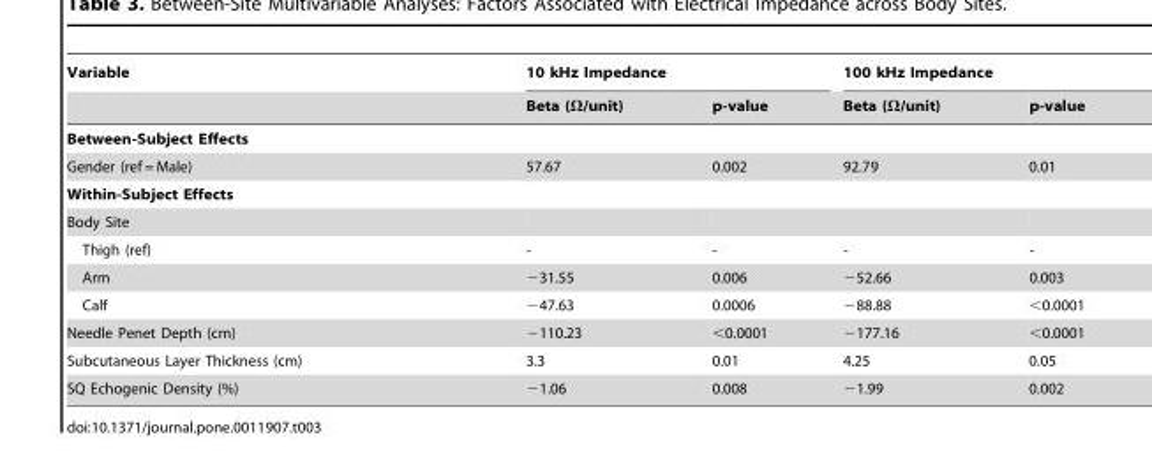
<table><thead><tr><td rowspan="2">Variable</td><td colspan="2">10 kHz Impedance</td><td colspan="2">100 kHz Impedance</td></tr><tr><td>Beta (Ω/unit)</td><td>p-value</td><td>Beta (Ω/unit)</td><td>p-value</td></tr></thead><tbody><tr><td colspan="5">Between-Subject Effects</td></tr><tr><td>Gender (ref = Male)</td><td>57.67</td><td>0.002</td><td>92.79</td><td>0.01</td></tr><tr><td colspan="5">Within-Subject Effects</td></tr><tr><td colspan="5">Body Site</td></tr><tr><td>Thigh (ref)</td><td>-</td><td>-</td><td>-</td><td>-</td></tr><tr><td>Arm</td><td>−31.55</td><td>0.006</td><td>−52.66</td><td>0.003</td></tr><tr><td>Calf</td><td>−47.63</td><td>0.0006</td><td>−88.88</td><td>&lt;0.0001</td></tr><tr><td>Needle Penet Depth (cm)</td><td>−110.23</td><td>&lt;0.0001</td><td>−177.16</td><td>&lt;0.0001</td></tr><tr><td>Subcutaneous Layer Thickness (cm)</td><td>3.3</td><td>0.01</td><td>4.25</td><td>0.05</td></tr><tr><td>SQ Echogenic Density (%)</td><td>−1.06</td><td>0.008</td><td>−1.99</td><td>0.002</td></tr></tbody></table>